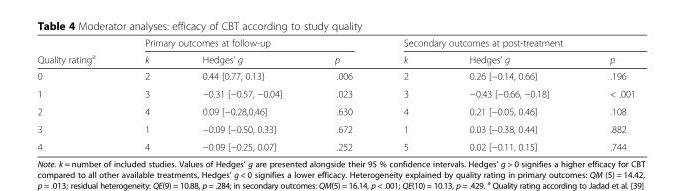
<table><thead><tr><td rowspan="2">Quality rating<sup>a</sup></td><td colspan="3">Primary outcomes at follow-up</td><td colspan="3">Secondary outcomes at post-treatment</td></tr><tr><td>k</td><td>Hedges’ g</td><td>p</td><td>k</td><td>Hedges’ g</td><td>p</td></tr></thead><tbody><tr><td>0</td><td>2</td><td>0.44 [0.77, 0.13]</td><td>.006</td><td>2</td><td>0.26 [−0.14, 0.66]</td><td>.196</td></tr><tr><td>1</td><td>3</td><td>−0.31 [−0.57, −0.04]</td><td>.023</td><td>3</td><td>−0.43 [−0.66, −0.18]</td><td>&lt; .001</td></tr><tr><td>2</td><td>4</td><td>0.09 [−0.28,0,46]</td><td>.630</td><td>4</td><td>0.21 [−0.05, 0.46]</td><td>.108</td></tr><tr><td>3</td><td>1</td><td>−0.09 [−0.50, 0.33]</td><td>.672</td><td>1</td><td>0.03 [−0.38, 0.44]</td><td>.882</td></tr><tr><td>4</td><td>4</td><td>−0.09 [−0.25, 0.07]</td><td>.252</td><td>5</td><td>0.02 [−0.11, 0.15]</td><td>.744</td></tr></tbody></table>